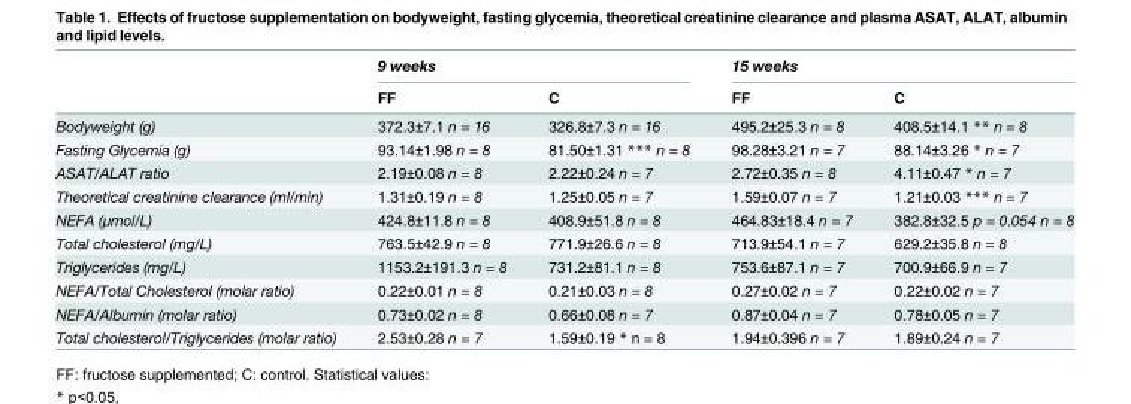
<table><thead><tr><td rowspan="2"></td><td colspan="2">9 weeks</td><td colspan="2">15 weeks</td></tr><tr><td>FF</td><td>C</td><td>FF</td><td>C</td></tr></thead><tbody><tr><td>Bodyweight (g)</td><td>372.3±7.1 n = 16</td><td>326.8±7.3 n = 16</td><td>495.2±25.3 n = 8</td><td>408.5±14.1 ** n = 8</td></tr><tr><td>Fasting Glycemia (g)</td><td>93.14±1.98 n = 8</td><td>81.50±1.31 *** n = 8</td><td>98.28±3.21 n = 7</td><td>88.14±3.26 * n = 7</td></tr><tr><td>ASAT/ALAT ratio</td><td>2.19±0.08 n = 8</td><td>2.22±0.24 n = 7</td><td>2.72±0.35 n = 8</td><td>4.11±0.47 * n = 7</td></tr><tr><td>Theoretical creatinine clearance (ml/min)</td><td>1.31±0.19 n = 8</td><td>1.25±0.05 n = 7</td><td>1.59±0.07 n = 7</td><td>1.21±0.03 *** n = 7</td></tr><tr><td>NEFA (μmol/L)</td><td>424.8±11.8 n = 8</td><td>408.9±51.8 n = 8</td><td>464.83±18.4 n = 7</td><td>382.8±32.5 p = 0.054 n = 8</td></tr><tr><td>Total cholesterol (mg/L)</td><td>763.5±42.9 n = 8</td><td>771.9±26.6 n = 8</td><td>713.9±54.1 n = 7</td><td>629.2±35.8 n = 8</td></tr><tr><td>Triglycerides (mg/L)</td><td>1153.2±191.3 n = 8</td><td>731.2±81.1 n = 8</td><td>753.6±87.1 n = 7</td><td>700.9±66.9 n = 7</td></tr><tr><td>NEFA/Total Cholesterol (molar ratio)</td><td>0.22±0.01 n = 8</td><td>0.21±0.03 n = 8</td><td>0.27±0.02 n = 7</td><td>0.22±0.02 n = 7</td></tr><tr><td>NEFA/Albumin (molar ratio)</td><td>0.73±0.02 n = 8</td><td>0.66±0.08 n = 7</td><td>0.87±0.04 n = 7</td><td>0.78±0.05 n = 7</td></tr><tr><td>Total cholesterol/Triglycerides (molar ratio)</td><td>2.53±0.28 n = 7</td><td>1.59±0.19 * n = 8</td><td>1.94±0.396 n = 7</td><td>1.89±0.24 n = 7</td></tr></tbody></table>